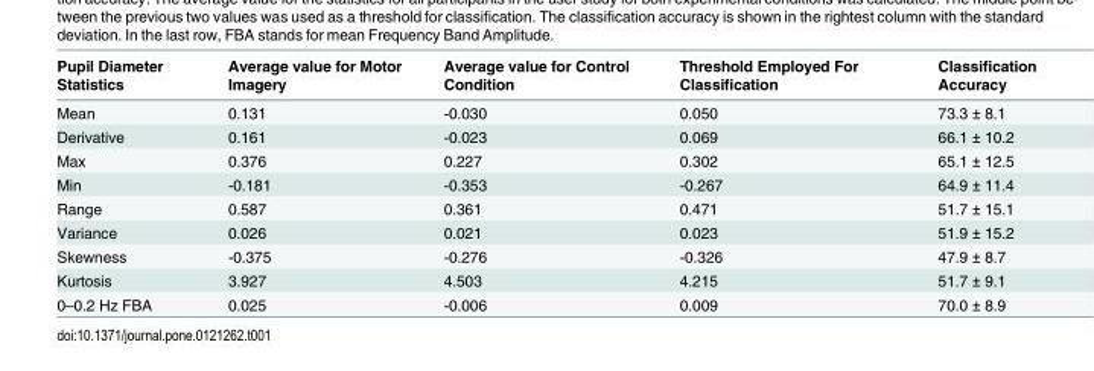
<table><thead><tr><td>Pupil Diameter Statistics</td><td>Average value for Motor Imagery</td><td>Average value for Control Condition</td><td>Threshold Employed For Classification</td><td>Classification Accuracy</td></tr></thead><tbody><tr><td>Mean</td><td>0.131</td><td>-0.030</td><td>0.050</td><td>73.3 ± 8.1</td></tr><tr><td>Derivative</td><td>0.161</td><td>-0.023</td><td>0.069</td><td>66.1 ± 10.2</td></tr><tr><td>Max</td><td>0.376</td><td>0.227</td><td>0.302</td><td>65.1 ± 12.5</td></tr><tr><td>Min</td><td>-0.181</td><td>-0.353</td><td>-0.267</td><td>64.9 ± 11.4</td></tr><tr><td>Range</td><td>0.587</td><td>0.361</td><td>0.471</td><td>51.7 ± 15.1</td></tr><tr><td>Variance</td><td>0.026</td><td>0.021</td><td>0.023</td><td>51.9 ± 15.2</td></tr><tr><td>Skewness</td><td>-0.375</td><td>-0.276</td><td>-0.326</td><td>47.9 ± 8.7</td></tr><tr><td>Kurtosis</td><td>3.927</td><td>4.503</td><td>4.215</td><td>51.7 ± 9.1</td></tr><tr><td>0–0.2 Hz FBA</td><td>0.025</td><td>-0.006</td><td>0.009</td><td>70.0 ± 8.9</td></tr></tbody></table>